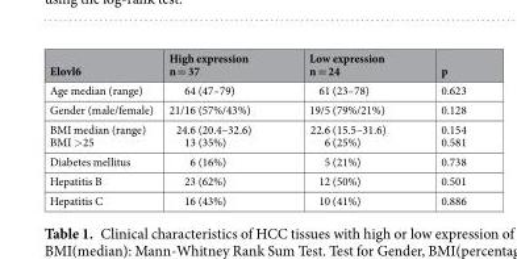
<table><thead><tr><td>Elovl6</td><td>High expression n = 37</td><td>Low expression n = 24</td><td>p</td></tr></thead><tbody><tr><td>Age median (range)</td><td>64 (47–79)</td><td>61 (23–78)</td><td>0.623</td></tr><tr><td>Gender (male/female)</td><td>21/16 (57%/43%)</td><td>19/5 (79%/21%)</td><td>0.128</td></tr><tr><td>BMI median (range) BMI &gt;25</td><td>24.6 (20.4–32.6) 13 (35%)</td><td>22.6 (15.5–31.6) 6 (25%)</td><td>0.154 0.581</td></tr><tr><td>Diabetes mellitus</td><td>6 (16%)</td><td>5 (21%)</td><td>0.738</td></tr><tr><td>Hepatitis B</td><td>23 (62%)</td><td>12 (50%)</td><td>0.501</td></tr><tr><td>Hepatitis C</td><td>16 (43%)</td><td>10 (41%)</td><td>0.886</td></tr></tbody></table>